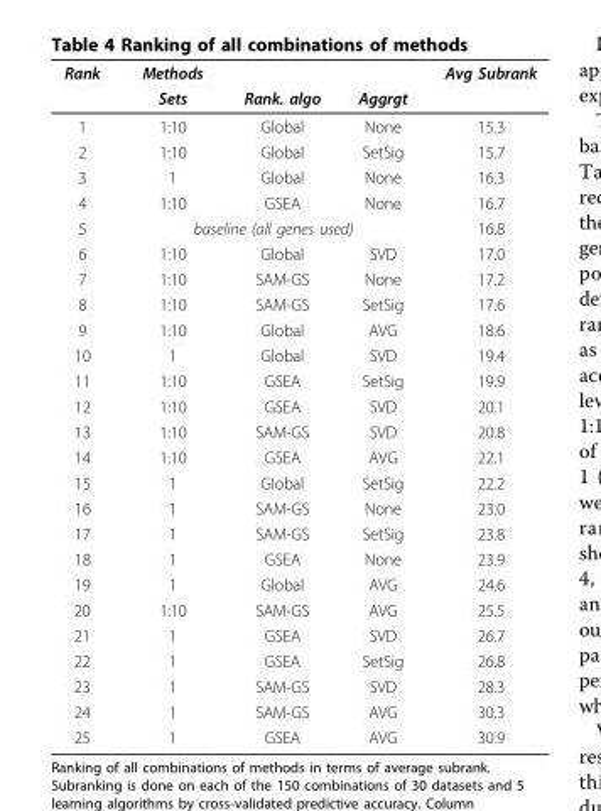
<table><thead><tr><td rowspan="2">Rank</td><td rowspan="2">Methods Sets</td><td rowspan="2">Rank. algo</td><td rowspan="2">Aggrgt</td><td rowspan="2">Avg Subrank</td></tr><tr></tr></thead><tbody><tr><td>1</td><td>1:10</td><td>Global</td><td>None</td><td>15.3</td></tr><tr><td>2</td><td>1:10</td><td>Global</td><td>SetSig</td><td>15.7</td></tr><tr><td>3</td><td>1</td><td>Global</td><td>None</td><td>16.3</td></tr><tr><td>4</td><td>1:10</td><td>GSEA</td><td>None</td><td>16.7</td></tr><tr><td>5</td><td colspan="3">baseline (all genes used)</td><td>16.8</td></tr><tr><td>6</td><td>1:10</td><td>Global</td><td>SVD</td><td>17.0</td></tr><tr><td>7</td><td>1:10</td><td>SAM-GS</td><td>None</td><td>17.2</td></tr><tr><td>8</td><td>1:10</td><td>SAM-GS</td><td>SetSig</td><td>17.6</td></tr><tr><td>9</td><td>1:10</td><td>Global</td><td>AVG</td><td>18.6</td></tr><tr><td>10</td><td>1</td><td>Global</td><td>SVD</td><td>19.4</td></tr><tr><td>11</td><td>1:10</td><td>GSEA</td><td>SetSig</td><td>19.9</td></tr><tr><td>12</td><td>1:10</td><td>GSEA</td><td>SVD</td><td>20.1</td></tr><tr><td>13</td><td>1:10</td><td>SAM-GS</td><td>SVD</td><td>20.8</td></tr><tr><td>14</td><td>1:10</td><td>GSEA</td><td>AVG</td><td>22.1</td></tr><tr><td>15</td><td>1</td><td>Global</td><td>SetSig</td><td>22.2</td></tr><tr><td>16</td><td>1</td><td>SAM-GS</td><td>None</td><td>23.0</td></tr><tr><td>17</td><td>1</td><td>SAM-GS</td><td>SetSig</td><td>23.8</td></tr><tr><td>18</td><td>1</td><td>GSEA</td><td>None</td><td>23.9</td></tr><tr><td>19</td><td>1</td><td>Global</td><td>AVG</td><td>24.6</td></tr><tr><td>20</td><td>1:10</td><td>SAM-GS</td><td>AVG</td><td>25.5</td></tr><tr><td>21</td><td>1</td><td>GSEA</td><td>SVD</td><td>26.7</td></tr><tr><td>22</td><td>1</td><td>GSEA</td><td>SetSig</td><td>26.8</td></tr><tr><td>23</td><td>1</td><td>SAM-GS</td><td>SVD</td><td>28.3</td></tr><tr><td>24</td><td>1</td><td>SAM-GS</td><td>AVG</td><td>30.3</td></tr><tr><td>25</td><td>1</td><td>GSEA</td><td>AVG</td><td>30.9</td></tr></tbody></table>